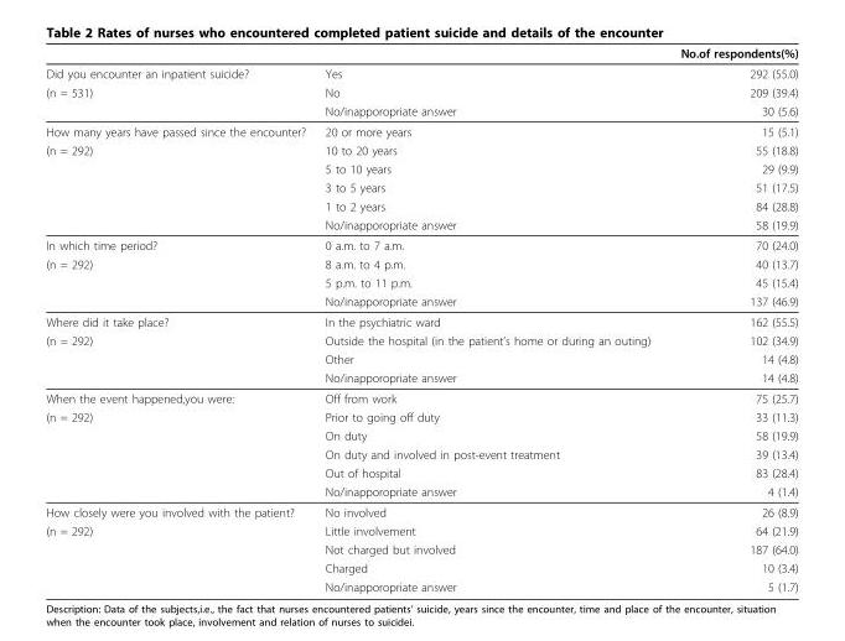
<table><thead><tr><td></td><td></td><td>No.of respondents(%)</td></tr></thead><tbody><tr><td>Did you encounter an inpatient suicide?</td><td>Yes</td><td>292 (55.0)</td></tr><tr><td rowspan="2">(n = 531)</td><td>No</td><td>209 (39.4)</td></tr><tr><td>No/inapporopriate answer</td><td>30 (5.6)</td></tr><tr><td>How many years have passed since the encounter?</td><td>20 or more years</td><td>15 (5.1)</td></tr><tr><td rowspan="5">(n = 292)</td><td>10 to 20 years</td><td>55 (18.8)</td></tr><tr><td>5 to 10 years</td><td>29 (9.9)</td></tr><tr><td>3 to 5 years</td><td>51 (17.5)</td></tr><tr><td>1 to 2 years</td><td>84 (28.8)</td></tr><tr><td>No/inapporopriate answer</td><td>58 (19.9)</td></tr><tr><td>In which time period?</td><td>0 a.m. to 7 a.m.</td><td>70 (24.0)</td></tr><tr><td rowspan="3">(n = 292)</td><td>8 a.m. to 4 p.m.</td><td>40 (13.7)</td></tr><tr><td>5 p.m. to 11 p.m.</td><td>45 (15.4)</td></tr><tr><td>No/inapporopriate answer</td><td>137 (46.9)</td></tr><tr><td>Where did it take place?</td><td>In the psychiatric ward</td><td>162 (55.5)</td></tr><tr><td rowspan="3">(n = 292)</td><td>Outside the hospital (in the patient’s home or during an outing)</td><td>102 (34.9)</td></tr><tr><td>Other</td><td>14 (4.8)</td></tr><tr><td>No/inapporopriate answer</td><td>14 (4.8)</td></tr><tr><td>When the event happened,you were:</td><td>Off from work</td><td>75 (25.7)</td></tr><tr><td rowspan="5">(n = 292)</td><td>Prior to going off duty</td><td>33 (11.3)</td></tr><tr><td>On duty</td><td>58 (19.9)</td></tr><tr><td>On duty and involved in post-event treatment</td><td>39 (13.4)</td></tr><tr><td>Out of hospital</td><td>83 (28.4)</td></tr><tr><td>No/inapporopriate answer</td><td>4 (1.4)</td></tr><tr><td>How closely were you involved with the patient?</td><td>No involved</td><td>26 (8.9)</td></tr><tr><td rowspan="4">(n = 292)</td><td>Little involvement</td><td>64 (21.9)</td></tr><tr><td>Not charged but involved</td><td>187 (64.0)</td></tr><tr><td>Charged</td><td>10 (3.4)</td></tr><tr><td>No/inapporopriate answer</td><td>5 (1.7)</td></tr></tbody></table>